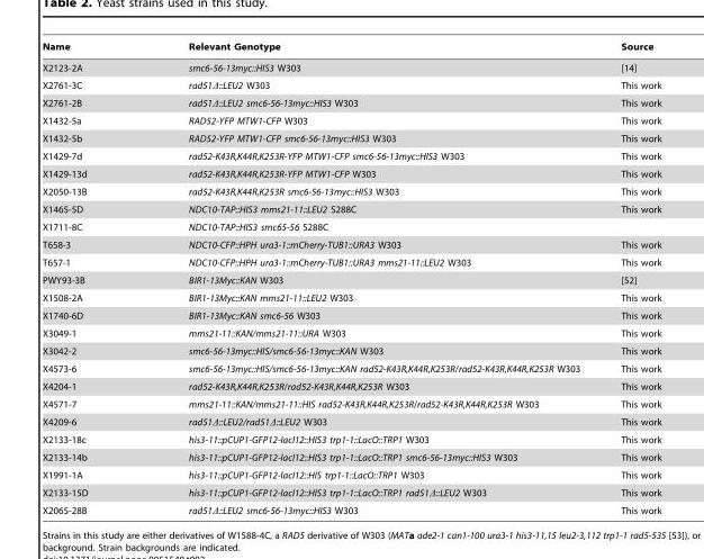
<table><thead><tr><td>Name</td><td>Relevant Genotype</td><td>Source</td></tr></thead><tbody><tr><td>X2123-2A</td><td>smc6-56-13myc::HIS3 W303</td><td>[14]</td></tr><tr><td>X2761-3C</td><td>rad51Δ::LEU2 W303</td><td>This work</td></tr><tr><td>X2761-2B</td><td>rad51Δ::LEU2 smc6-56-13myc::HIS3 W303</td><td>This work</td></tr><tr><td>X1432-5a</td><td>RAD52-YFP MTW1-CFP W303</td><td>This work</td></tr><tr><td>X1432-5b</td><td>RAD52-YFP MTW1-CFP smc6-56-13myc::HIS3 W303</td><td>This work</td></tr><tr><td>X1429-7d</td><td>rad52-K43R,K44R,K253R-YFP MTW1-CFP smc6-56-13myc::HIS3 W303</td><td>This work</td></tr><tr><td>X1429-13d</td><td>rad52-K43R,K44R,K253R-YFP MTW1-CFP W303</td><td>This work</td></tr><tr><td>X2050-13B</td><td>rad52-K43R,K44R,K253R smc6-56-13myc::HIS3 W303</td><td>This work</td></tr><tr><td>X1465-5D</td><td>NDC10-TAP::HIS3 mms21-11::LEU2 S288C</td><td>This work</td></tr><tr><td>X1711-8C</td><td>NDC10-TAP::HIS3 smc65-56 S288C</td><td></td></tr><tr><td>T658-3</td><td>NDC10-CFP::HPH ura3-1::mCherry-TUB1::URA3 W303</td><td>This work</td></tr><tr><td>T657-1</td><td>NDC10-CFP::HPH ura3-1::mCherry-TUB1::URA3 mms21-11::LEU2 W303</td><td>This work</td></tr><tr><td>PWY93-3B</td><td>BIR1-13Myc::KAN W303</td><td>[52]</td></tr><tr><td>X1508-2A</td><td>BIR1-13Myc::KAN mms21-11::LEU2 W303</td><td>This work</td></tr><tr><td>X1740-6D</td><td>BIR1-13Myc::KAN smc6-56 W303</td><td>This work</td></tr><tr><td>X3049-1</td><td>mms21-11::KAN/mms21-11::URA W303</td><td>This work</td></tr><tr><td>X3042-2</td><td>smc6-56-13myc::HIS/smc6-56-13myc::KAN W303</td><td>This work</td></tr><tr><td>X4573-6</td><td>smc6-56-13myc::HIS/smc6-56-13myc::KAN rad52-K43R,K44R,K253R/rad52-K43R,K44R,K253R W303</td><td>This work</td></tr><tr><td>X4204-1</td><td>rad52-K43R,K44R,K253R/rad52-K43R,K44R,K253R W303</td><td>This work</td></tr><tr><td>X4571-7</td><td>mms21-11::KAN/mms21-11::HIS rad52-K43R,K44R,K253R/rad52-K43R,K44R,K253R W303</td><td>This work</td></tr><tr><td>X4209-6</td><td>rad51Δ::LEU2/rad51Δ::LEU2 W303</td><td>This work</td></tr><tr><td>X2133-18c</td><td>his3-11::pCUP1-GFP12-lacI12::HIS3 trp1-1::LacO::TRP1 W303</td><td>This work</td></tr><tr><td>X2133-14b</td><td>his3-11::pCUP1-GFP12-lacI12::HIS3 trp1-1::LacO::TRP1 smc6-56-13myc::HIS3 W303</td><td>This work</td></tr><tr><td>X1991-1A</td><td>his3-11::pCUP1-GFP12-lacI12::HIS trp1-1::LacO::TRP1 W303</td><td>This work</td></tr><tr><td>X2133-15D</td><td>his3-11::pCUP1-GFP12-lacI12::HIS3 trp1-1::LacO::TRP1 rad51Δ::LEU2 W303</td><td>This work</td></tr><tr><td>X2065-28B</td><td>rad51Δ::LEU2 smc6-56-13myc::HIS3 W303</td><td>This work</td></tr></tbody></table>